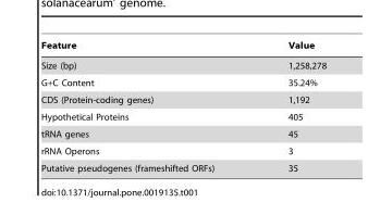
<table><thead><tr><td>Feature</td><td>Value</td></tr></thead><tbody><tr><td>Size (bp)</td><td>1,258,278</td></tr><tr><td>G+C Content</td><td>35.24%</td></tr><tr><td>CDS (Protein-coding genes)</td><td>1,192</td></tr><tr><td>Hypothetical Proteins</td><td>405</td></tr><tr><td>tRNA genes</td><td>45</td></tr><tr><td>rRNA Operons</td><td>3</td></tr><tr><td>Putative pseudogenes (frameshifted ORFs)</td><td>35</td></tr></tbody></table>